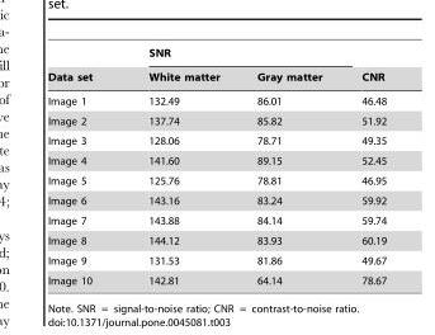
<table><thead><tr><td rowspan="2">Data set</td><td colspan="2">SNR</td><td rowspan="2">CNR</td></tr><tr><td>White matter</td><td>Gray matter</td></tr></thead><tbody><tr><td>Image 1</td><td>132.49</td><td>86.01</td><td>46.48</td></tr><tr><td>Image 2</td><td>137.74</td><td>85.82</td><td>51.92</td></tr><tr><td>Image 3</td><td>128.06</td><td>78.71</td><td>49.35</td></tr><tr><td>Image 4</td><td>141.60</td><td>89.15</td><td>52.45</td></tr><tr><td>Image 5</td><td>125.76</td><td>78.81</td><td>46.95</td></tr><tr><td>Image 6</td><td>143.16</td><td>83.24</td><td>59.92</td></tr><tr><td>Image 7</td><td>143.88</td><td>84.14</td><td>59.74</td></tr><tr><td>Image 8</td><td>144.12</td><td>83.93</td><td>60.19</td></tr><tr><td>Image 9</td><td>131.53</td><td>81.86</td><td>49.67</td></tr><tr><td>Image 10</td><td>142.81</td><td>64.14</td><td>78.67</td></tr></tbody></table>